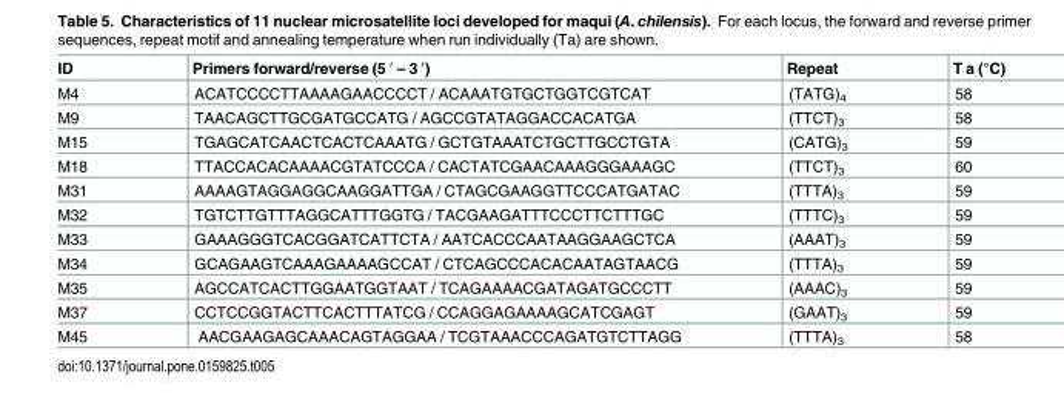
<table><thead><tr><td>ID</td><td>Primers forward/reverse (5 ′ – 3 ′)</td><td>Repeat</td><td>T a (°C)</td></tr></thead><tbody><tr><td>M4</td><td>ACATCCCCTTAAAAGAACCCCT / ACAAATGTGCTGGTCGTCAT</td><td>(TATG)<sub>4</sub></td><td>58</td></tr><tr><td>M9</td><td>TAACAGCTTGCGATGCCATG / AGCCGTATAGGACCACATGA</td><td>(TTCT)<sub>3</sub></td><td>58</td></tr><tr><td>M15</td><td>TGAGCATCAACTCACTCAAATG / GCTGTAAATCTGCTTGCCTGTA</td><td>(CATG)<sub>3</sub></td><td>59</td></tr><tr><td>M18</td><td>TTACCACACAAAACGTATCCCA / CACTATCGAACAAAGGGAAAGC</td><td>(TTCT)<sub>3</sub></td><td>60</td></tr><tr><td>M31</td><td>AAAAGTAGGAGGCAAGGATTGA / CTAGCGAAGGTTCCCATGATAC</td><td>(TTTA)<sub>3</sub></td><td>59</td></tr><tr><td>M32</td><td>TGTCTTGTTTAGGCATTTGGTG / TACGAAGATTTCCCTTCTTTGC</td><td>(TTTC)<sub>3</sub></td><td>59</td></tr><tr><td>M33</td><td>GAAAGGGTCACGGATCATTCTA / AATCACCCAATAAGGAAGCTCA</td><td>(AAAT)<sub>3</sub></td><td>59</td></tr><tr><td>M34</td><td>GCAGAAGTCAAAGAAAAGCCAT / CTCAGCCCACACAATAGTAACG</td><td>(TTTA)<sub>3</sub></td><td>59</td></tr><tr><td>M35</td><td>AGCCATCACTTGGAATGGTAAT / TCAGAAAACGATAGATGCCCTT</td><td>(AAAC)<sub>3</sub></td><td>59</td></tr><tr><td>M37</td><td>CCTCCGGTACTTCACTTTATCG / CCAGGAGAAAAGCATCGAGT</td><td>(GAAT)<sub>3</sub></td><td>59</td></tr><tr><td>M45</td><td>AACGAAGAGCAAACAGTAGGAA / TCGTAAACCCAGATGTCTTAGG</td><td>(TTTA)<sub>3</sub></td><td>58</td></tr></tbody></table>